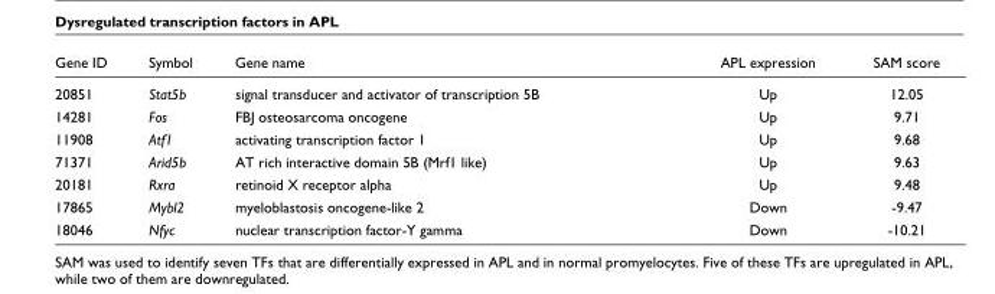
<table><thead><tr><td>Gene ID</td><td>Symbol</td><td>Gene name</td><td>APL expression</td><td>SAM score</td></tr></thead><tbody><tr><td>20851</td><td>Stat5b</td><td>signal transducer and activator of transcription 5B</td><td>Up</td><td>12.05</td></tr><tr><td>14281</td><td>Fos</td><td>FBJ osteosarcoma oncogene</td><td>Up</td><td>9.71</td></tr><tr><td>11908</td><td>Atf1</td><td>activating transcription factor 1</td><td>Up</td><td>9.68</td></tr><tr><td>71371</td><td>Arid5b</td><td>AT rich interactive domain 5B (Mrf1 like)</td><td>Up</td><td>9.63</td></tr><tr><td>20181</td><td>Rxra</td><td>retinoid X receptor alpha</td><td>Up</td><td>9.48</td></tr><tr><td>17865</td><td>Mybl2</td><td>myeloblastosis oncogene-like 2</td><td>Down</td><td>-9.47</td></tr><tr><td>18046</td><td>Nfyc</td><td>nuclear transcription factor-Y gamma</td><td>Down</td><td>-10.21</td></tr></tbody></table>